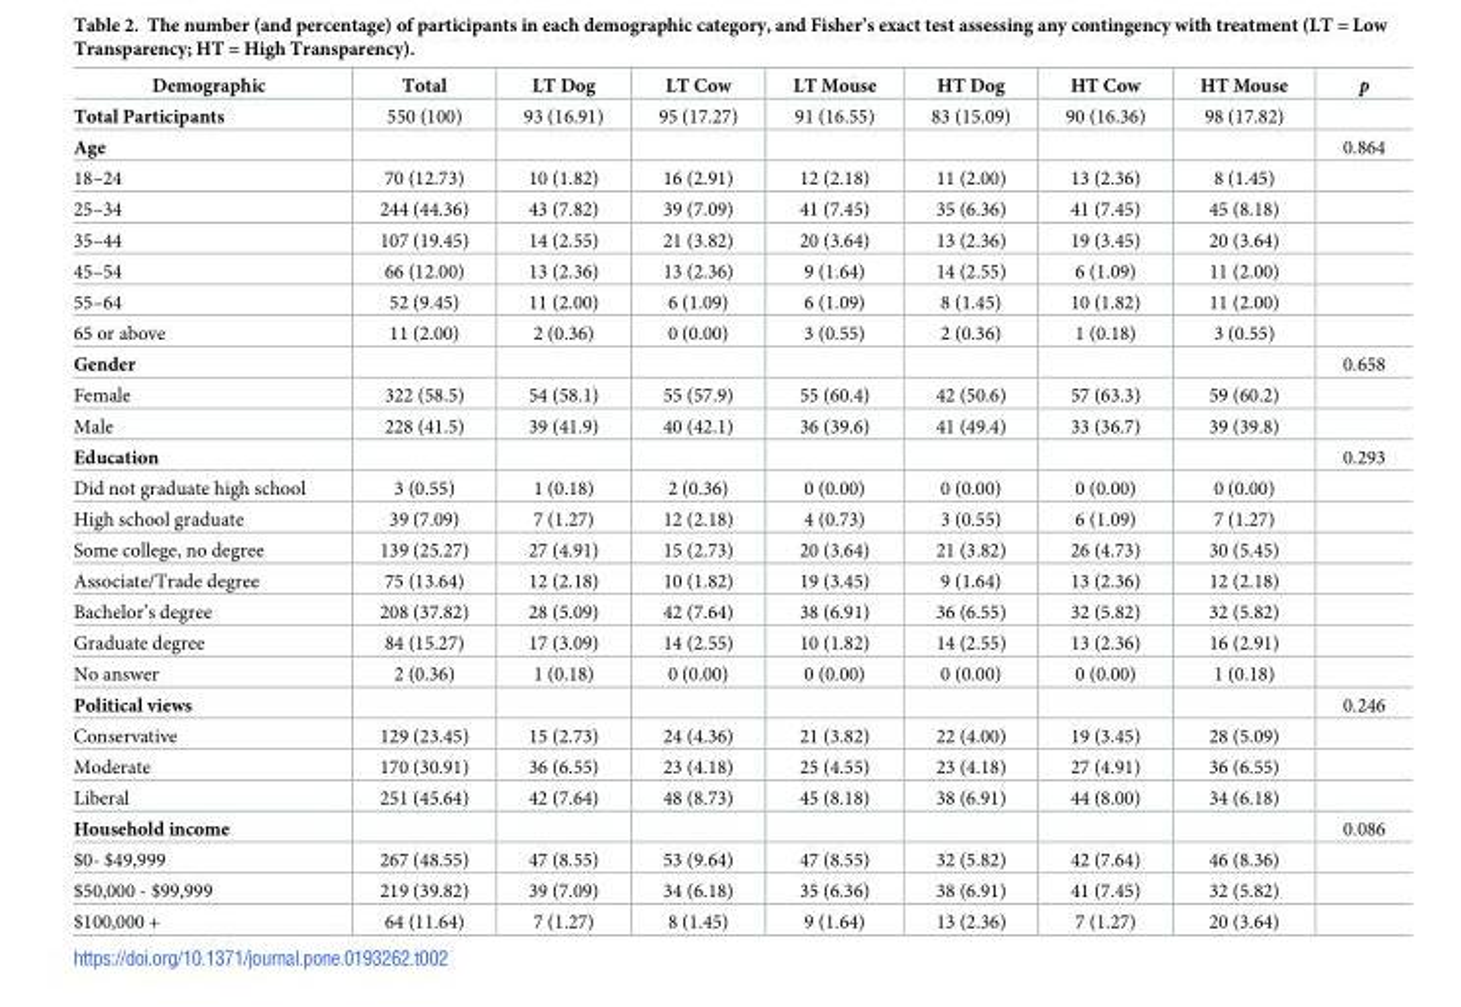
<table><thead><tr><td>Demographic</td><td>Total</td><td>LT Dog</td><td>LT Cow</td><td>LT Mouse</td><td>HT Dog</td><td>HT Cow</td><td>HT Mouse</td><td>p</td></tr></thead><tbody><tr><td>Total Participants</td><td>550 (100)</td><td>93 (16.91)</td><td>95 (17.27)</td><td>91 (16.55)</td><td>83 (15.09)</td><td>90 (16.36)</td><td>98 (17.82)</td><td></td></tr><tr><td>Age</td><td></td><td></td><td></td><td></td><td></td><td></td><td></td><td>0.864</td></tr><tr><td>18–24</td><td>70 (12.73)</td><td>10 (1.82)</td><td>16 (2.91)</td><td>12 (2.18)</td><td>11 (2.00)</td><td>13 (2.36)</td><td>8 (1.45)</td><td></td></tr><tr><td>25–34</td><td>244 (44.36)</td><td>43 (7.82)</td><td>39 (7.09)</td><td>41 (7.45)</td><td>35 (6.36)</td><td>41 (7.45)</td><td>45 (8.18)</td><td></td></tr><tr><td>35–44</td><td>107 (19.45)</td><td>14 (2.55)</td><td>21 (3.82)</td><td>20 (3.64)</td><td>13 (2.36)</td><td>19 (3.45)</td><td>20 (3.64)</td><td></td></tr><tr><td>45–54</td><td>66 (12.00)</td><td>13 (2.36)</td><td>13 (2.36)</td><td>9 (1.64)</td><td>14 (2.55)</td><td>6 (1.09)</td><td>11 (2.00)</td><td></td></tr><tr><td>55–64</td><td>52 (9.45)</td><td>11 (2.00)</td><td>6 (1.09)</td><td>6 (1.09)</td><td>8 (1.45)</td><td>10 (1.82)</td><td>11 (2.00)</td><td></td></tr><tr><td>65 or above</td><td>11 (2.00)</td><td>2 (0.36)</td><td>0 (0.00)</td><td>3 (0.55)</td><td>2 (0.36)</td><td>1 (0.18)</td><td>3 (0.55)</td><td></td></tr><tr><td>Gender</td><td></td><td></td><td></td><td></td><td></td><td></td><td></td><td>0.658</td></tr><tr><td>Female</td><td>322 (58.5)</td><td>54 (58.1)</td><td>55 (57.9)</td><td>55 (60.4)</td><td>42 (50.6)</td><td>57 (63.3)</td><td>59 (60.2)</td><td></td></tr><tr><td>Male</td><td>228 (41.5)</td><td>39 (41.9)</td><td>40 (42.1)</td><td>36 (39.6)</td><td>41 (49.4)</td><td>33 (36.7)</td><td>39 (39.8)</td><td></td></tr><tr><td>Education</td><td></td><td></td><td></td><td></td><td></td><td></td><td></td><td>0.293</td></tr><tr><td>Did not graduate high school</td><td>3 (0.55)</td><td>1 (0.18)</td><td>2 (0.36)</td><td>0 (0.00)</td><td>0 (0.00)</td><td>0 (0.00)</td><td>0 (0.00)</td><td></td></tr><tr><td>High school graduate</td><td>39 (7.09)</td><td>7 (1.27)</td><td>12 (2.18)</td><td>4 (0.73)</td><td>3 (0.55)</td><td>6 (1.09)</td><td>7 (1.27)</td><td></td></tr><tr><td>Some college, no degree</td><td>139 (25.27)</td><td>27 (4.91)</td><td>15 (2.73)</td><td>20 (3.64)</td><td>21 (3.82)</td><td>26 (4.73)</td><td>30 (5.45)</td><td></td></tr><tr><td>Associate/Trade degree</td><td>75 (13.64)</td><td>12 (2.18)</td><td>10 (1.82)</td><td>19 (3.45)</td><td>9 (1.64)</td><td>13 (2.36)</td><td>12 (2.18)</td><td></td></tr><tr><td>Bachelor’s degree</td><td>208 (37.82)</td><td>28 (5.09)</td><td>42 (7.64)</td><td>38 (6.91)</td><td>36 (6.55)</td><td>32 (5.82)</td><td>32 (5.82)</td><td></td></tr><tr><td>Graduate degree</td><td>84 (15.27)</td><td>17 (3.09)</td><td>14 (2.55)</td><td>10 (1.82)</td><td>14 (2.55)</td><td>13 (2.36)</td><td>16 (2.91)</td><td></td></tr><tr><td>No answer</td><td>2 (0.36)</td><td>1 (0.18)</td><td>0 (0.00)</td><td>0 (0.00)</td><td>0 (0.00)</td><td>0 (0.00)</td><td>1 (0.18)</td><td></td></tr><tr><td>Political views</td><td></td><td></td><td></td><td></td><td></td><td></td><td></td><td>0.246</td></tr><tr><td>Conservative</td><td>129 (23.45)</td><td>15 (2.73)</td><td>24 (4.36)</td><td>21 (3.82)</td><td>22 (4.00)</td><td>19 (3.45)</td><td>28 (5.09)</td><td></td></tr><tr><td>Moderate</td><td>170 (30.91)</td><td>36 (6.55)</td><td>23 (4.18)</td><td>25 (4.55)</td><td>23 (4.18)</td><td>27 (4.91)</td><td>36 (6.55)</td><td></td></tr><tr><td>Liberal</td><td>251 (45.64)</td><td>42 (7.64)</td><td>48 (8.73)</td><td>45 (8.18)</td><td>38 (6.91)</td><td>44 (8.00)</td><td>34 (6.18)</td><td></td></tr><tr><td>Household income</td><td></td><td></td><td></td><td></td><td></td><td></td><td></td><td>0.086</td></tr><tr><td>$0- $49,999</td><td>267 (48.55)</td><td>47 (8.55)</td><td>53 (9.64)</td><td>47 (8.55)</td><td>32 (5.82)</td><td>42 (7.64)</td><td>46 (8.36)</td><td></td></tr><tr><td>$50,000 - $99,999</td><td>219 (39.82)</td><td>39 (7.09)</td><td>34 (6.18)</td><td>35 (6.36)</td><td>38 (6.91)</td><td>41 (7.45)</td><td>32 (5.82)</td><td></td></tr><tr><td>$100,000 +</td><td>64 (11.64)</td><td>7 (1.27)</td><td>8 (1.45)</td><td>9 (1.64)</td><td>13 (2.36)</td><td>7 (1.27)</td><td>20 (3.64)</td><td></td></tr></tbody></table>